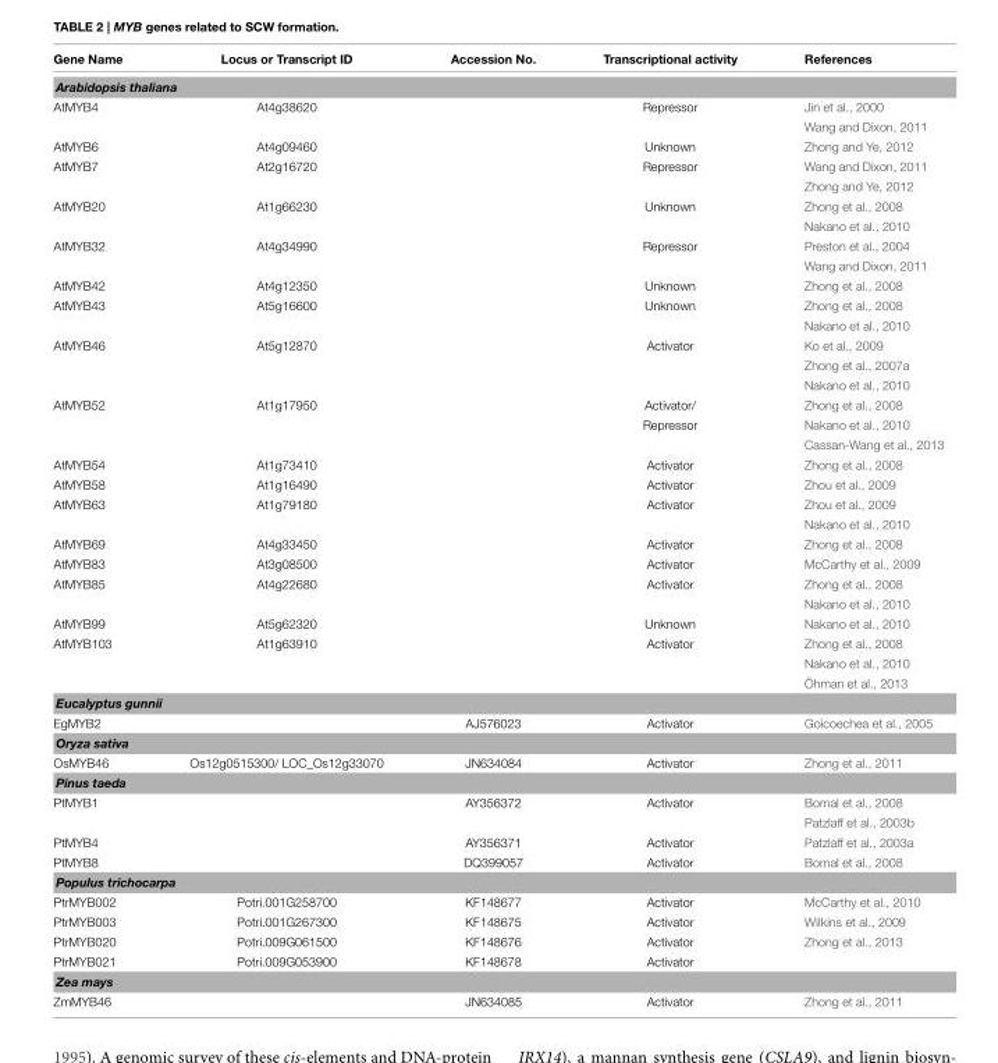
<table><thead><tr><td>Gene Name</td><td>Locus or Transcript ID</td><td>Accession No.</td><td>Transcriptional activity</td><td>References</td></tr></thead><tbody><tr><td colspan="5">Arabidopsis thaliana</td></tr><tr><td rowspan="2">AtMYB4</td><td>At4g38620</td><td></td><td>Repressor</td><td>Jin et al., 2000</td></tr><tr><td></td><td></td><td></td><td>Wang and Dixon, 2011</td></tr><tr><td>AtMYB6</td><td>At4g09460</td><td></td><td>Unknown</td><td>Zhong and Ye, 2012</td></tr><tr><td rowspan="2">AtMYB7</td><td>At2g16720</td><td></td><td>Repressor</td><td>Wang and Dixon, 2011</td></tr><tr><td></td><td></td><td></td><td>Zhong and Ye, 2012</td></tr><tr><td rowspan="2">AtMYB20</td><td>At1g66230</td><td></td><td>Unknown</td><td>Zhong et al., 2008</td></tr><tr><td></td><td></td><td></td><td>Nakano et al., 2010</td></tr><tr><td rowspan="2">AtMYB32</td><td>At4g34990</td><td></td><td>Repressor</td><td>Preston et al., 2004</td></tr><tr><td></td><td></td><td></td><td>Wang and Dixon, 2011</td></tr><tr><td>AtMYB42</td><td>At4g12350</td><td></td><td>Unknown</td><td>Zhong et al., 2008</td></tr><tr><td rowspan="2">AtMYB43</td><td>At5g16600</td><td></td><td>Unknown</td><td>Zhong et al., 2008</td></tr><tr><td></td><td></td><td></td><td>Nakano et al., 2010</td></tr><tr><td rowspan="3">AtMYB46</td><td>At5g12870</td><td></td><td>Activator</td><td>Ko et al., 2009</td></tr><tr><td></td><td></td><td></td><td>Zhong et al., 2007a</td></tr><tr><td></td><td></td><td></td><td>Nakano et al., 2010</td></tr><tr><td rowspan="3">AtMYB52</td><td>At1g17950</td><td></td><td>Activator/</td><td>Zhong et al., 2008</td></tr><tr><td></td><td></td><td>Repressor</td><td>Nakano et al., 2010</td></tr><tr><td></td><td></td><td></td><td>Cassan-Wang et al., 2013</td></tr><tr><td>AtMYB54</td><td>At1g73410</td><td></td><td>Activator</td><td>Zhong et al., 2008</td></tr><tr><td>AtMYB58</td><td>At1g16490</td><td></td><td>Activator</td><td>Zhou et al., 2009</td></tr><tr><td rowspan="2">AtMYB63</td><td>At1g79180</td><td></td><td>Activator</td><td>Zhou et al., 2009</td></tr><tr><td></td><td></td><td></td><td>Nakano et al., 2010</td></tr><tr><td>AtMYB69</td><td>At4g33450</td><td></td><td>Activator</td><td>Zhong et al., 2008</td></tr><tr><td>AtMYB83</td><td>At3g08500</td><td></td><td>Activator</td><td>McCarthy et al., 2009</td></tr><tr><td rowspan="2">AtMYB85</td><td>At4g22680</td><td></td><td>Activator</td><td>Zhong et al., 2008</td></tr><tr><td></td><td></td><td></td><td>Nakano et al., 2010</td></tr><tr><td>AtMYB99</td><td>At5g62320</td><td></td><td>Unknown</td><td>Nakano et al., 2010</td></tr><tr><td rowspan="3">AtMYB103</td><td>At1g63910</td><td></td><td>Activator</td><td>Zhong et al., 2008</td></tr><tr><td></td><td></td><td></td><td>Nakano et al., 2010</td></tr><tr><td></td><td></td><td></td><td>Öhman et al., 2013</td></tr><tr><td colspan="5">Eucalyptus gunnii</td></tr><tr><td>EgMYB2</td><td></td><td>AJ576023</td><td>Activator</td><td>Goicoechea et al., 2005</td></tr><tr><td colspan="5">Oryza sativa</td></tr><tr><td>OsMYB46</td><td>Os12g0515300/ LOC_Os12g33070</td><td>JN634084</td><td>Activator</td><td>Zhong et al., 2011</td></tr><tr><td colspan="5">Pinus taeda</td></tr><tr><td rowspan="2">PtMYB1</td><td></td><td>AY356372</td><td>Activator</td><td>Bomal et al., 2008</td></tr><tr><td></td><td></td><td></td><td>Patzlaff et al., 2003b</td></tr><tr><td>PtMYB4</td><td></td><td>AY356371</td><td>Activator</td><td>Patzlaff et al., 2003a</td></tr><tr><td>PtMYB8</td><td></td><td>DQ399057</td><td>Activator</td><td>Bomal et al., 2008</td></tr><tr><td colspan="5">Populus trichocarpa</td></tr><tr><td>PtrMYB002</td><td>Potri.001G258700</td><td>KF148677</td><td>Activator</td><td>McCarthy et al., 2010</td></tr><tr><td>PtrMYB003</td><td>Potri.001G267300</td><td>KF148675</td><td>Activator</td><td>Wilkins et al., 2009</td></tr><tr><td>PtrMYB020</td><td>Potri.009G061500</td><td>KF148676</td><td>Activator</td><td>Zhong et al., 2013</td></tr><tr><td>PtrMYB021</td><td>Potri.009G053900</td><td>KF148678</td><td>Activator</td><td></td></tr><tr><td colspan="5">Zea mays</td></tr><tr><td>ZmMYB46</td><td></td><td>JN634085</td><td>Activator</td><td>Zhong et al., 2011</td></tr></tbody></table>